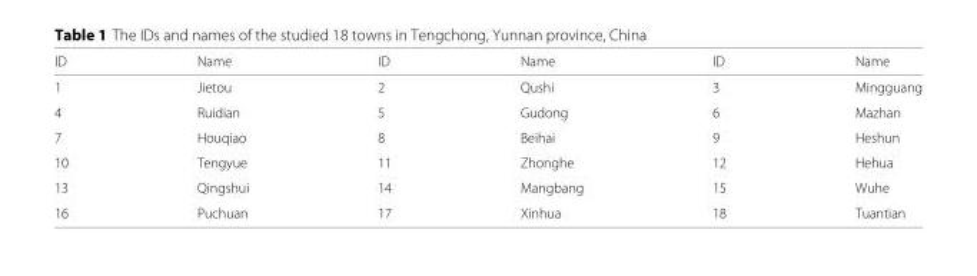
<table><thead><tr><td>ID</td><td>Name</td><td>ID</td><td>Name</td><td>ID</td><td>Name</td></tr></thead><tbody><tr><td>1</td><td>Jietou</td><td>2</td><td>Qushi</td><td>3</td><td>Mingguang</td></tr><tr><td>4</td><td>Ruidian</td><td>5</td><td>Gudong</td><td>6</td><td>Mazhan</td></tr><tr><td>7</td><td>Houqiao</td><td>8</td><td>Beihai</td><td>9</td><td>Heshun</td></tr><tr><td>10</td><td>Tengyue</td><td>11</td><td>Zhonghe</td><td>12</td><td>Hehua</td></tr><tr><td>13</td><td>Qingshui</td><td>14</td><td>Mangbang</td><td>15</td><td>Wuhe</td></tr><tr><td>16</td><td>Puchuan</td><td>17</td><td>Xinhua</td><td>18</td><td>Tuantian</td></tr></tbody></table>